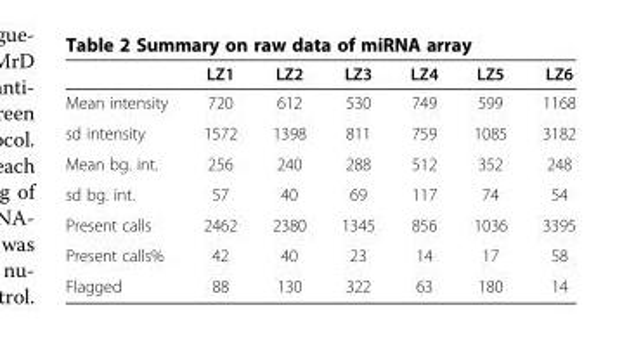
<table><thead><tr><td></td><td>LZ1</td><td>LZ2</td><td>LZ3</td><td>LZ4</td><td>LZ5</td><td>LZ6</td></tr></thead><tbody><tr><td>Mean intensity</td><td>720</td><td>612</td><td>530</td><td>749</td><td>599</td><td>1168</td></tr><tr><td>sd intensity</td><td>1572</td><td>1398</td><td>811</td><td>759</td><td>1085</td><td>3182</td></tr><tr><td>Mean bg. int.</td><td>256</td><td>240</td><td>288</td><td>512</td><td>352</td><td>248</td></tr><tr><td>sd bg. int.</td><td>57</td><td>40</td><td>69</td><td>117</td><td>74</td><td>54</td></tr><tr><td>Present calls</td><td>2462</td><td>2380</td><td>1345</td><td>856</td><td>1036</td><td>3395</td></tr><tr><td>Present calls%</td><td>42</td><td>40</td><td>23</td><td>14</td><td>17</td><td>58</td></tr><tr><td>Flagged</td><td>88</td><td>130</td><td>322</td><td>63</td><td>180</td><td>14</td></tr></tbody></table>